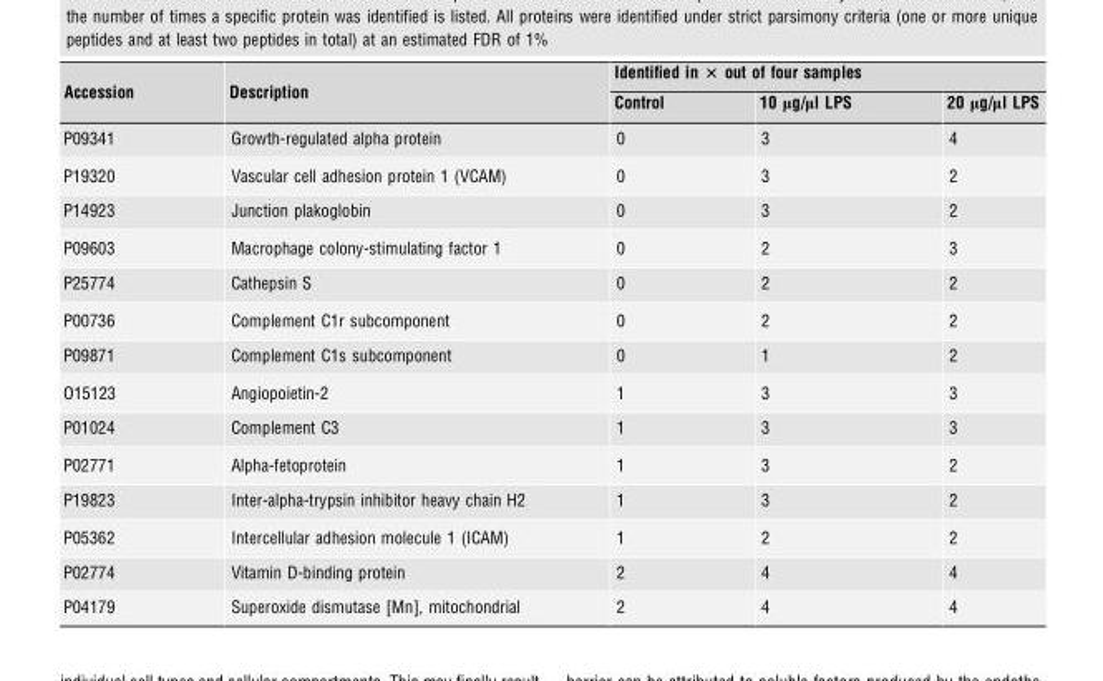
<table><thead><tr><td rowspan="2">Accession</td><td rowspan="2">Description</td><td colspan="3">Identified in × out of four samples</td></tr><tr><td>Control</td><td>10 μg/μl LPS</td><td>20 μg/μl LPS</td></tr></thead><tbody><tr><td>P09341</td><td>Growth-regulated alpha protein</td><td>0</td><td>3</td><td>4</td></tr><tr><td>P19320</td><td>Vascular cell adhesion protein 1 (VCAM)</td><td>0</td><td>3</td><td>2</td></tr><tr><td>P14923</td><td>Junction plakoglobin</td><td>0</td><td>3</td><td>2</td></tr><tr><td>P09603</td><td>Macrophage colony-stimulating factor 1</td><td>0</td><td>2</td><td>3</td></tr><tr><td>P25774</td><td>Cathepsin S</td><td>0</td><td>2</td><td>2</td></tr><tr><td>P00736</td><td>Complement C1r subcomponent</td><td>0</td><td>2</td><td>2</td></tr><tr><td>P09871</td><td>Complement C1s subcomponent</td><td>0</td><td>1</td><td>2</td></tr><tr><td>O15123</td><td>Angiopoietin-2</td><td>1</td><td>3</td><td>3</td></tr><tr><td>P01024</td><td>Complement C3</td><td>1</td><td>3</td><td>3</td></tr><tr><td>P02771</td><td>Alpha-fetoprotein</td><td>1</td><td>3</td><td>2</td></tr><tr><td>P19823</td><td>Inter-alpha-trypsin inhibitor heavy chain H2</td><td>1</td><td>3</td><td>2</td></tr><tr><td>P05362</td><td>Intercellular adhesion molecule 1 (ICAM)</td><td>1</td><td>2</td><td>2</td></tr><tr><td>P02774</td><td>Vitamin D-binding protein</td><td>2</td><td>4</td><td>4</td></tr><tr><td>P04179</td><td>Superoxide dismutase [Mn], mitochondrial</td><td>2</td><td>4</td><td>4</td></tr></tbody></table>